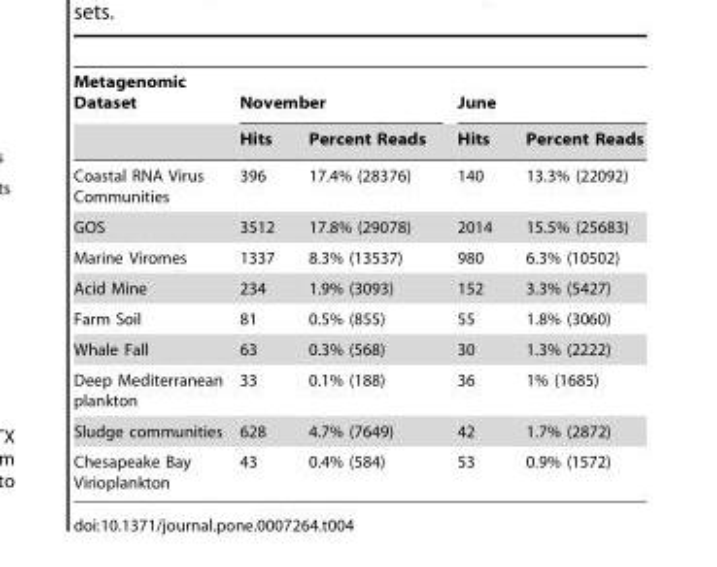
<table><thead><tr><td rowspan="2">Metagenomic Dataset</td><td colspan="2">November</td><td colspan="2">June</td></tr><tr><td>Hits</td><td>Percent Reads</td><td>Hits</td><td>Percent Reads</td></tr></thead><tbody><tr><td>Coastal RNA Virus Communities</td><td>396</td><td>17.4% (28376)</td><td>140</td><td>13.3% (22092)</td></tr><tr><td>GOS</td><td>3512</td><td>17.8% (29078)</td><td>2014</td><td>15.5% (25683)</td></tr><tr><td>Marine Viromes</td><td>1337</td><td>8.3% (13537)</td><td>980</td><td>6.3% (10502)</td></tr><tr><td>Acid Mine</td><td>234</td><td>1.9% (3093)</td><td>152</td><td>3.3% (5427)</td></tr><tr><td>Farm Soil</td><td>81</td><td>0.5% (855)</td><td>55</td><td>1.8% (3060)</td></tr><tr><td>Whale Fall</td><td>63</td><td>0.3% (568)</td><td>30</td><td>1.3% (2222)</td></tr><tr><td>Deep Mediterranean plankton</td><td>33</td><td>0.1% (188)</td><td>36</td><td>1% (1685)</td></tr><tr><td>Sludge communities</td><td>628</td><td>4.7% (7649)</td><td>42</td><td>1.7% (2872)</td></tr><tr><td>Chesapeake Bay Virioplankton</td><td>43</td><td>0.4% (584)</td><td>53</td><td>0.9% (1572)</td></tr></tbody></table>